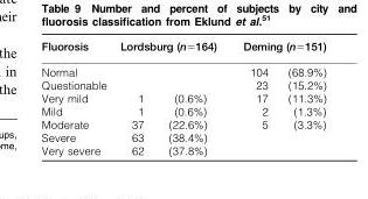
<table><thead><tr><td rowspan="2">Fluorosis Normal</td><td colspan="2">Lordsburg (n=164)</td><td colspan="2">Deming (n=151)</td></tr><tr><td></td><td></td><td>104</td><td>(68.9%)</td></tr></thead><tbody><tr><td>Questionable</td><td></td><td></td><td>23</td><td>(15.2%)</td></tr><tr><td>Very mild</td><td>1</td><td>(0.6%)</td><td>17</td><td>(11.3%)</td></tr><tr><td>Mild</td><td>1</td><td>(0.6%)</td><td>2</td><td>(1.3%)</td></tr><tr><td>Moderate</td><td>37</td><td>(22.6%)</td><td>5</td><td>(3.3%)</td></tr><tr><td>Severe</td><td>63</td><td>(38.4%)</td><td></td><td></td></tr><tr><td>Very severe</td><td>62</td><td>(37.8%)</td><td></td><td></td></tr></tbody></table>